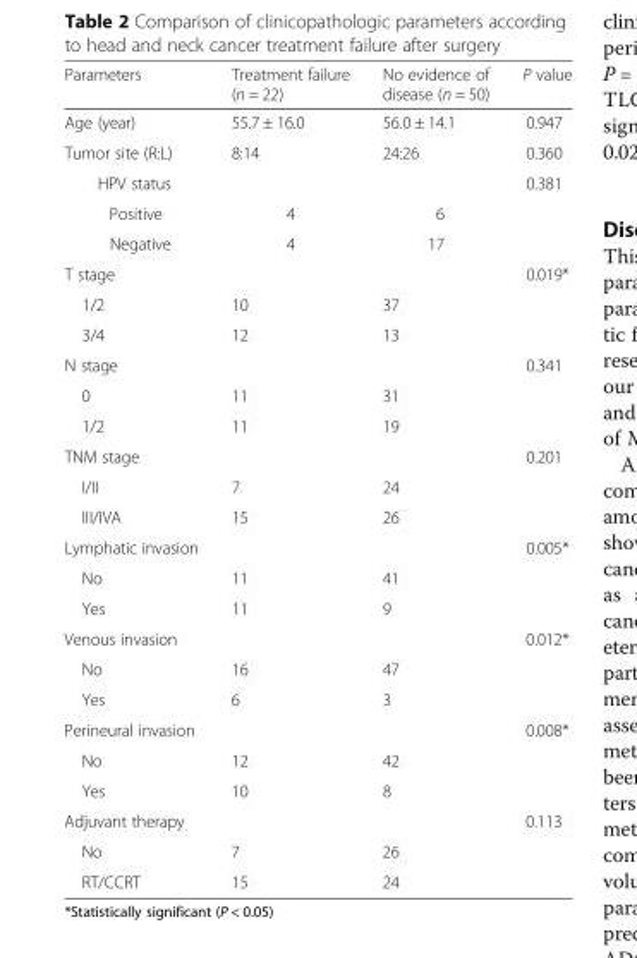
<table><thead><tr><td>Parameters</td><td>Treatment failure (n = 22)</td><td>No evidence of disease (n = 50)</td><td>P value</td></tr></thead><tbody><tr><td>Age (year)</td><td>55.7 ± 16.0</td><td>56.0 ± 14.1</td><td>0.947</td></tr><tr><td>Tumor site (R:L)</td><td>8:14</td><td>24:26</td><td>0.360</td></tr><tr><td>HPV status</td><td></td><td></td><td>0.381</td></tr><tr><td>Positive</td><td>4</td><td>6</td><td></td></tr><tr><td>Negative</td><td>4</td><td>17</td><td></td></tr><tr><td>T stage</td><td></td><td></td><td>0.019*</td></tr><tr><td>1/2</td><td>10</td><td>37</td><td></td></tr><tr><td>3/4</td><td>12</td><td>13</td><td></td></tr><tr><td>N stage</td><td></td><td></td><td>0.341</td></tr><tr><td>0</td><td>11</td><td>31</td><td></td></tr><tr><td>1/2</td><td>11</td><td>19</td><td></td></tr><tr><td>TNM stage</td><td></td><td></td><td>0.201</td></tr><tr><td>I/II</td><td>7</td><td>24</td><td></td></tr><tr><td>III/IVA</td><td>15</td><td>26</td><td></td></tr><tr><td>Lymphatic invasion</td><td></td><td></td><td>0.005*</td></tr><tr><td>No</td><td>11</td><td>41</td><td></td></tr><tr><td>Yes</td><td>11</td><td>9</td><td></td></tr><tr><td>Venous invasion</td><td></td><td></td><td>0.012*</td></tr><tr><td>No</td><td>16</td><td>47</td><td></td></tr><tr><td>Yes</td><td>6</td><td>3</td><td></td></tr><tr><td>Perineural invasion</td><td></td><td></td><td>0.008*</td></tr><tr><td>No</td><td>12</td><td>42</td><td></td></tr><tr><td>Yes</td><td>10</td><td>8</td><td></td></tr><tr><td>Adjuvant therapy</td><td></td><td></td><td>0.113</td></tr><tr><td>No</td><td>7</td><td>26</td><td></td></tr><tr><td>RT/CCRT</td><td>15</td><td>24</td><td></td></tr></tbody></table>